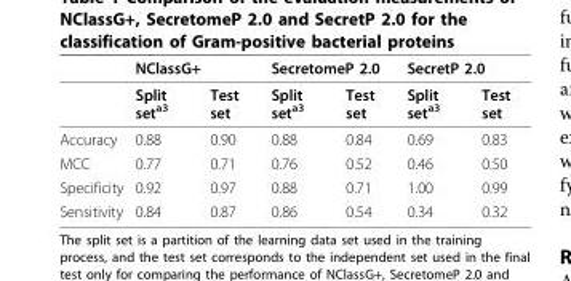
<table><thead><tr><td rowspan="2"></td><td colspan="2">NClassG+</td><td colspan="2">SecretomeP 2.0</td><td colspan="2">SecretP 2.0</td></tr><tr><td>Split set<sup>a3</sup></td><td>Test set</td><td>Split set<sup>a3</sup></td><td>Test set</td><td>Split set<sup>a3</sup></td><td>Test set</td></tr></thead><tbody><tr><td>Accuracy</td><td>0.88</td><td>0.90</td><td>0.88</td><td>0.84</td><td>0.69</td><td>0.83</td></tr><tr><td>MCC</td><td>0.77</td><td>0.71</td><td>0.76</td><td>0.52</td><td>0.46</td><td>0.50</td></tr><tr><td>Specificity</td><td>0.92</td><td>0.97</td><td>0.88</td><td>0.71</td><td>1.00</td><td>0.99</td></tr><tr><td>Sensitivity</td><td>0.84</td><td>0.87</td><td>0.86</td><td>0.54</td><td>0.34</td><td>0.32</td></tr></tbody></table>